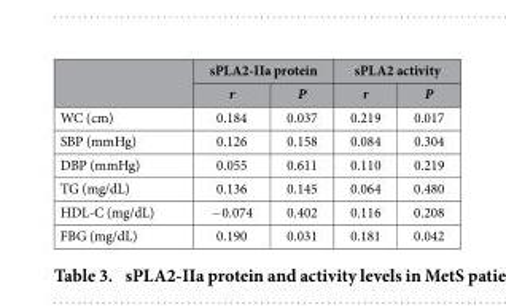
<table><thead><tr><td rowspan="2"></td><td colspan="2">sPLA2-IIa protein</td><td colspan="2">sPLA2 activity</td></tr><tr><td>r</td><td>P</td><td>r</td><td>P</td></tr></thead><tbody><tr><td>WC (cm)</td><td>0.184</td><td>0.037</td><td>0.219</td><td>0.017</td></tr><tr><td>SBP (mmHg)</td><td>0.126</td><td>0.158</td><td>0.084</td><td>0.304</td></tr><tr><td>DBP (mmHg)</td><td>0.055</td><td>0.611</td><td>0.110</td><td>0.219</td></tr><tr><td>TG (mg/dL)</td><td>0.136</td><td>0.145</td><td>0.064</td><td>0.480</td></tr><tr><td>HDL-C (mg/dL)</td><td>− 0.074</td><td>0.402</td><td>0.116</td><td>0.208</td></tr><tr><td>FBG (mg/dL)</td><td>0.190</td><td>0.031</td><td>0.181</td><td>0.042</td></tr></tbody></table>